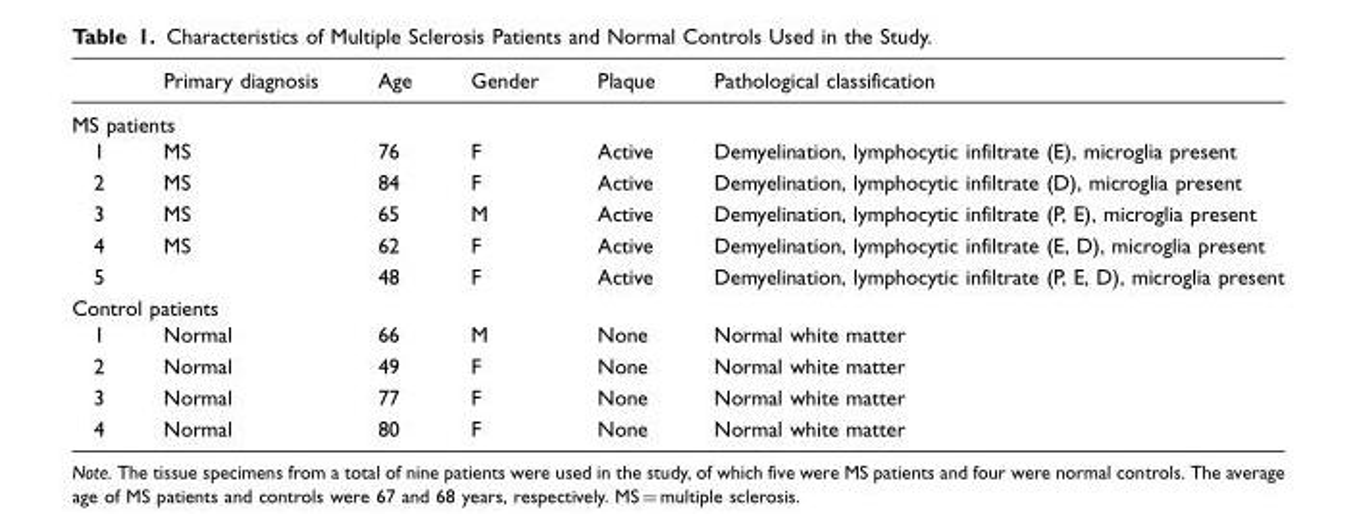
<table><thead><tr><td></td><td>Primary diagnosis</td><td>Age</td><td>Gender</td><td>Plaque</td><td>Pathological classification</td></tr></thead><tbody><tr><td colspan="6">MS patients</td></tr><tr><td>1</td><td>MS</td><td>76</td><td>F</td><td>Active</td><td>Demyelination, lymphocytic infiltrate (E), microglia present</td></tr><tr><td>2</td><td>MS</td><td>84</td><td>F</td><td>Active</td><td>Demyelination, lymphocytic infiltrate (D), microglia present</td></tr><tr><td>3</td><td>MS</td><td>65</td><td>M</td><td>Active</td><td>Demyelination, lymphocytic infiltrate (P, E), microglia present</td></tr><tr><td>4</td><td>MS</td><td>62</td><td>F</td><td>Active</td><td>Demyelination, lymphocytic infiltrate (E, D), microglia present</td></tr><tr><td>5</td><td></td><td>48</td><td>F</td><td>Active</td><td>Demyelination, lymphocytic infiltrate (P, E, D), microglia present</td></tr><tr><td colspan="6">Control patients</td></tr><tr><td>1</td><td>Normal</td><td>66</td><td>M</td><td>None</td><td>Normal white matter</td></tr><tr><td>2</td><td>Normal</td><td>49</td><td>F</td><td>None</td><td>Normal white matter</td></tr><tr><td>3</td><td>Normal</td><td>77</td><td>F</td><td>None</td><td>Normal white matter</td></tr><tr><td>4</td><td>Normal</td><td>80</td><td>F</td><td>None</td><td>Normal white matter</td></tr></tbody></table>